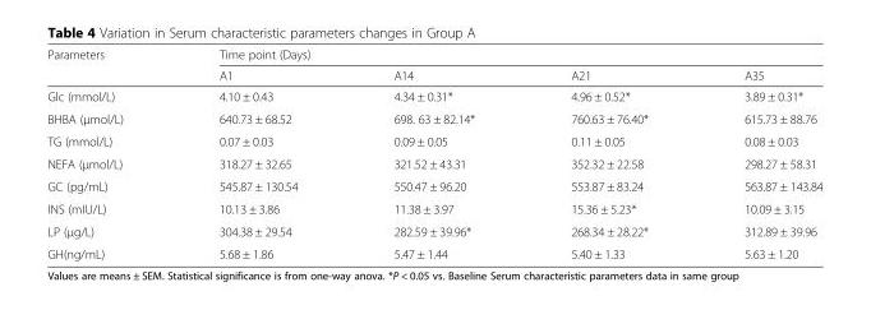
<table><thead><tr><td rowspan="2">Parameters</td><td colspan="4">Time point (Days)</td></tr><tr><td>A1</td><td>A14</td><td>A21</td><td>A35</td></tr></thead><tbody><tr><td>Glc (mmol/L)</td><td>4.10 ± 0.43</td><td>4.34 ± 0.31*</td><td>4.96 ± 0.52*</td><td>3.89 ± 0.31*</td></tr><tr><td>BHBA (μmol/L)</td><td>640.73 ± 68.52</td><td>698. 63 ± 82.14*</td><td>760.63 ± 76.40*</td><td>615.73 ± 88.76</td></tr><tr><td>TG (mmol/L)</td><td>0.07 ± 0.03</td><td>0.09 ± 0.05</td><td>0.11 ± 0.05</td><td>0.08 ± 0.03</td></tr><tr><td>NEFA (μmol/L)</td><td>318.27 ± 32.65</td><td>321.52 ± 43.31</td><td>352.32 ± 22.58</td><td>298.27 ± 58.31</td></tr><tr><td>GC (pg/mL)</td><td>545.87 ± 130.54</td><td>550.47 ± 96.20</td><td>553.87 ± 83.24</td><td>563.87 ± 143.84</td></tr><tr><td>INS (mIU/L)</td><td>10.13 ± 3.86</td><td>11.38 ± 3.97</td><td>15.36 ± 5.23*</td><td>10.09 ± 3.15</td></tr><tr><td>LP (μg/L)</td><td>304.38 ± 29.54</td><td>282.59 ± 39.96*</td><td>268.34 ± 28.22*</td><td>312.89 ± 39.96</td></tr><tr><td>GH(ng/mL)</td><td>5.68 ± 1.86</td><td>5.47 ± 1.44</td><td>5.40 ± 1.33</td><td>5.63 ± 1.20</td></tr></tbody></table>